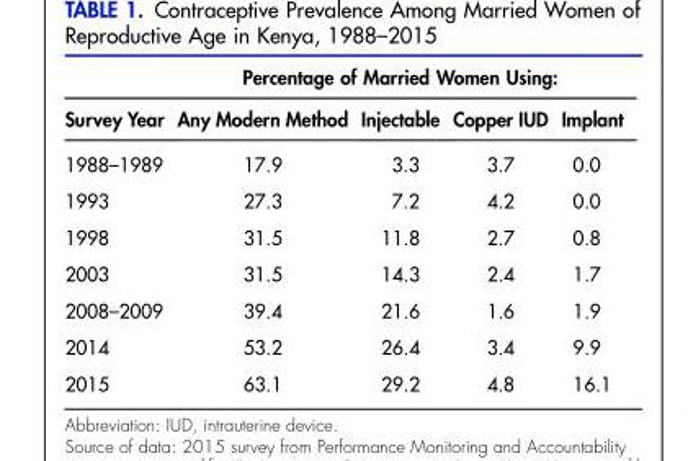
<table><thead><tr><td colspan="5">Percentage of Married Women Using:</td></tr><tr><td>Survey Year</td><td>Any Modern Method</td><td>Injectable</td><td>Copper IUD</td><td>Implant</td></tr></thead><tbody><tr><td>1988–1989</td><td>17.9</td><td>3.3</td><td>3.7</td><td>0.0</td></tr><tr><td>1993</td><td>27.3</td><td>7.2</td><td>4.2</td><td>0.0</td></tr><tr><td>1998</td><td>31.5</td><td>11.8</td><td>2.7</td><td>0.8</td></tr><tr><td>2003</td><td>31.5</td><td>14.3</td><td>2.4</td><td>1.7</td></tr><tr><td>2008–2009</td><td>39.4</td><td>21.6</td><td>1.6</td><td>1.9</td></tr><tr><td>2014</td><td>53.2</td><td>26.4</td><td>3.4</td><td>9.9</td></tr><tr><td>2015</td><td>63.1</td><td>29.2</td><td>4.8</td><td>16.1</td></tr></tbody></table>